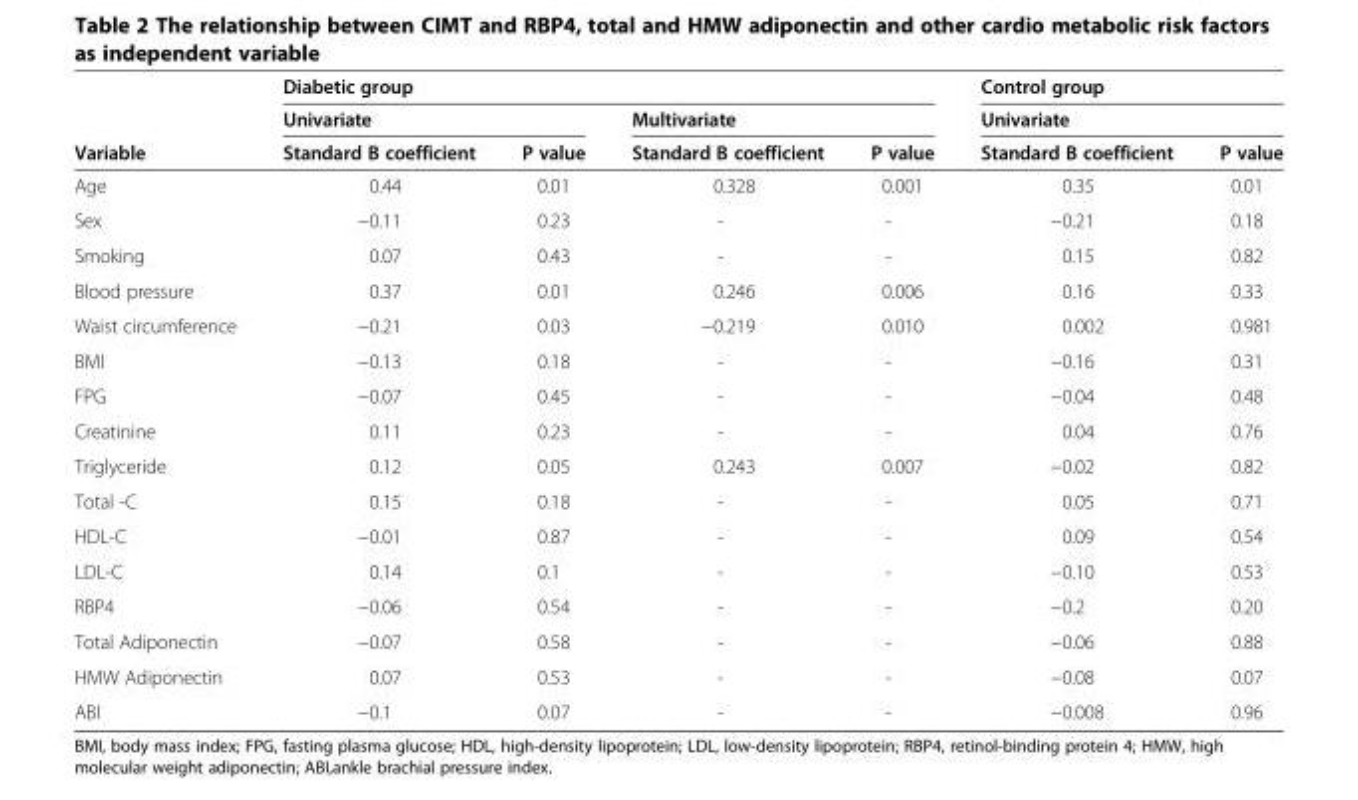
<table><thead><tr><td rowspan="3">Variable</td><td colspan="4">Diabetic group</td><td rowspan="2" colspan="2">Control group Univariate</td></tr><tr><td colspan="2">Univariate</td><td colspan="2">Multivariate</td></tr><tr><td>Standard B coefficient</td><td>P value</td><td>Standard B coefficient</td><td>P value</td><td>Standard B coefficient</td><td>P value</td></tr></thead><tbody><tr><td>Age</td><td>0.44</td><td>0.01</td><td>0.328</td><td>0.001</td><td>0.35</td><td>0.01</td></tr><tr><td>Sex</td><td>−0.11</td><td>0.23</td><td>-</td><td>-</td><td>−0.21</td><td>0.18</td></tr><tr><td>Smoking</td><td>0.07</td><td>0.43</td><td>-</td><td>-</td><td>0.15</td><td>0.82</td></tr><tr><td>Blood pressure</td><td>0.37</td><td>0.01</td><td>0.246</td><td>0.006</td><td>0.16</td><td>0.33</td></tr><tr><td>Waist circumference</td><td>−0.21</td><td>0.03</td><td>−0.219</td><td>0.010</td><td>0.002</td><td>0.981</td></tr><tr><td>BMI</td><td>−0.13</td><td>0.18</td><td>-</td><td>-</td><td>−0.16</td><td>0.31</td></tr><tr><td>FPG</td><td>−0.07</td><td>0.45</td><td>-</td><td>-</td><td>−0.04</td><td>0.48</td></tr><tr><td>Creatinine</td><td>0.11</td><td>0.23</td><td>-</td><td>-</td><td>0.04</td><td>0.76</td></tr><tr><td>Triglyceride</td><td>0.12</td><td>0.05</td><td>0.243</td><td>0.007</td><td>−0.02</td><td>0.82</td></tr><tr><td>Total -C</td><td>0.15</td><td>0.18</td><td>-</td><td>-</td><td>0.05</td><td>0.71</td></tr><tr><td>HDL-C</td><td>−0.01</td><td>0.87</td><td>-</td><td>-</td><td>0.09</td><td>0.54</td></tr><tr><td>LDL-C</td><td>0.14</td><td>0.1</td><td>-</td><td>-</td><td>−0.10</td><td>0.53</td></tr><tr><td>RBP4</td><td>−0.06</td><td>0.54</td><td>-</td><td>-</td><td>−0.2</td><td>0.20</td></tr><tr><td>Total Adiponectin</td><td>−0.07</td><td>0.58</td><td>-</td><td>-</td><td>−0.06</td><td>0.88</td></tr><tr><td>HMW Adiponectin</td><td>0.07</td><td>0.53</td><td>-</td><td>-</td><td>−0.08</td><td>0.07</td></tr><tr><td>ABI</td><td>−0.1</td><td>0.07</td><td>-</td><td>-</td><td>−0.008</td><td>0.96</td></tr></tbody></table>